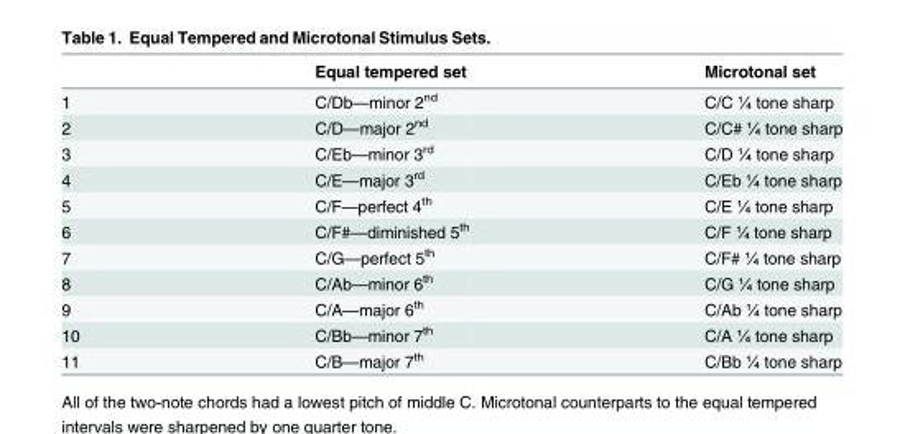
<table><thead><tr><td></td><td>Equal tempered set</td><td>Microtonal set</td></tr></thead><tbody><tr><td>1</td><td>C/Db—minor 2<sup>nd</sup></td><td>C/C ¼ tone sharp</td></tr><tr><td>2</td><td>C/D—major 2<sup>nd</sup></td><td>C/C# ¼ tone sharp</td></tr><tr><td>3</td><td>C/Eb—minor 3<sup>rd</sup></td><td>C/D ¼ tone sharp</td></tr><tr><td>4</td><td>C/E—major 3<sup>rd</sup></td><td>C/Eb ¼ tone sharp</td></tr><tr><td>5</td><td>C/F—perfect 4<sup>th</sup></td><td>C/E ¼ tone sharp</td></tr><tr><td>6</td><td>C/F#—diminished 5<sup>th</sup></td><td>C/F ¼ tone sharp</td></tr><tr><td>7</td><td>C/G—perfect 5<sup>th</sup></td><td>C/F# ¼ tone sharp</td></tr><tr><td>8</td><td>C/Ab—minor 6<sup>th</sup></td><td>C/G ¼ tone sharp</td></tr><tr><td>9</td><td>C/A—major 6<sup>th</sup></td><td>C/Ab ¼ tone sharp</td></tr><tr><td>10</td><td>C/Bb—minor 7<sup>th</sup></td><td>C/A ¼ tone sharp</td></tr><tr><td>11</td><td>C/B—major 7<sup>th</sup></td><td>C/Bb ¼ tone sharp</td></tr></tbody></table>